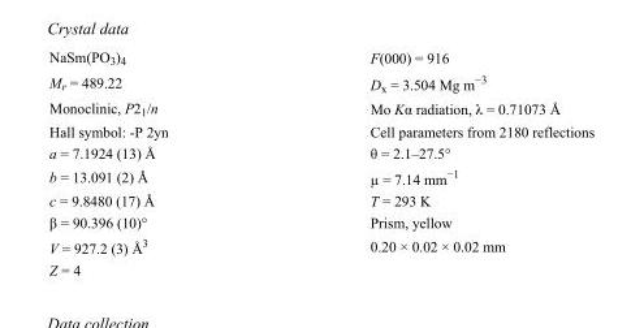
<table><tbody><tr><td>NaSm(PO<sub>3</sub>)<sub>4</sub></td><td>F(000) = 916</td></tr><tr><td>M<sub>r</sub> = 489.22</td><td>D<sub>x</sub> = 3.504 Mg m<sup>−3</sup></td></tr><tr><td>Monoclinic, P2<sub>1</sub>/n</td><td>Mo Kα radiation, λ = 0.71073 Å</td></tr><tr><td>Hall symbol: -P 2yn</td><td>Cell parameters from 2180 reflections</td></tr><tr><td>a = 7.1924 (13) Å</td><td>θ = 2.1–27.5°</td></tr><tr><td>b = 13.091 (2) Å</td><td>µ = 7.14 mm<sup>−1</sup></td></tr><tr><td>c = 9.8480 (17) Å</td><td>T = 293 K</td></tr><tr><td>β = 90.396 (10)°</td><td>Prism, yellow</td></tr><tr><td>V = 927.2 (3) Å<sup>3</sup></td><td>0.20 × 0.02 × 0.02 mm</td></tr><tr><td>Z = 4</td><td></td></tr></tbody></table>